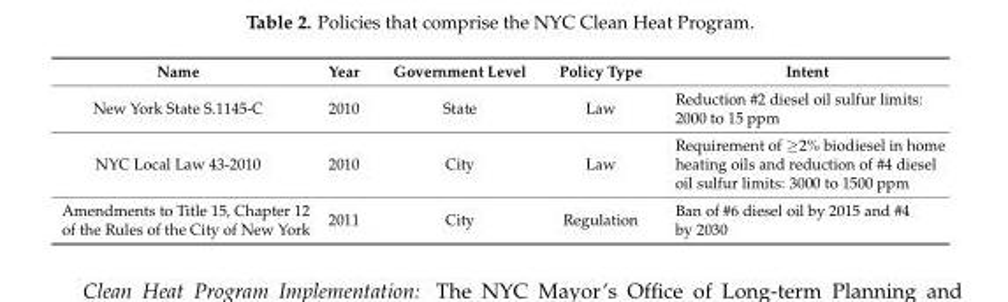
<table><thead><tr><td>Name</td><td>Year</td><td>Government Level</td><td>Policy Type</td><td>Intent</td></tr></thead><tbody><tr><td>New York State S.1145-C</td><td>2010</td><td>State</td><td>Law</td><td>Reduction #2 diesel oil sulfur limits: 2000 to 15 ppm</td></tr><tr><td>NYC Local Law 43-2010</td><td>2010</td><td>City</td><td>Law</td><td>Requirement of ≥2% biodiesel in home heating oils and reduction of #4 diesel oil sulfur limits: 3000 to 1500 ppm</td></tr><tr><td>Amendments to Title 15, Chapter 12 of the Rules of the City of New York</td><td>2011</td><td>City</td><td>Regulation</td><td>Ban of #6 diesel oil by 2015 and #4 by 2030</td></tr></tbody></table>